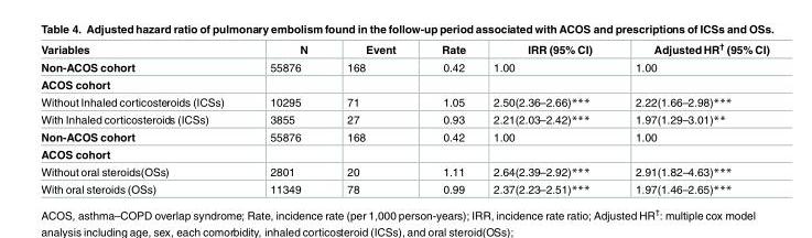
<table><thead><tr><td>Variables</td><td>N</td><td>Event</td><td>Rate</td><td>IRR (95% CI)</td><td>Adjusted HR<sup>†</sup> (95% CI)</td></tr></thead><tbody><tr><td>Non-ACOS cohort</td><td>55876</td><td>168</td><td>0.42</td><td>1.00</td><td>1.00</td></tr><tr><td colspan="6">ACOS cohort</td></tr><tr><td>Without Inhaled corticosteroids (ICSs)</td><td>10295</td><td>71</td><td>1.05</td><td>2.50(2.36–2.66)***</td><td>2.22(1.66–2.98)***</td></tr><tr><td>With Inhaled corticosteroids (ICSs)</td><td>3855</td><td>27</td><td>0.93</td><td>2.21(2.03–2.42)***</td><td>1.97(1.29–3.01)**</td></tr><tr><td>Non-ACOS cohort</td><td>55876</td><td>168</td><td>0.42</td><td>1.00</td><td>1.00</td></tr><tr><td colspan="6">ACOS cohort</td></tr><tr><td>Without oral steroids(OSs)</td><td>2801</td><td>20</td><td>1.11</td><td>2.64(2.39–2.92)***</td><td>2.91(1.82–4.63)***</td></tr><tr><td>With oral steroids (OSs)</td><td>11349</td><td>78</td><td>0.99</td><td>2.37(2.23–2.51)***</td><td>1.97(1.46–2.65)***</td></tr></tbody></table>